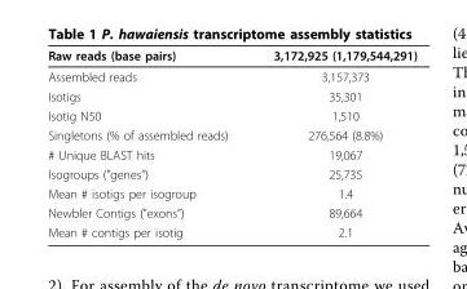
<table><thead><tr><td>Raw reads (base pairs)</td><td>3,172,925 (1,179,544,291)</td></tr></thead><tbody><tr><td>Assembled reads</td><td>3,157,373</td></tr><tr><td>Isotigs</td><td>35,301</td></tr><tr><td>Isotig N50</td><td>1,510</td></tr><tr><td>Singletons (% of assembled reads)</td><td>276,564 (8.8%)</td></tr><tr><td># Unique BLAST hits</td><td>19,067</td></tr><tr><td>Isogroups (&quot;genes”)</td><td>25,735</td></tr><tr><td>Mean # isotigs per isogroup</td><td>1.4</td></tr><tr><td>Newbler Contigs (&quot;exons”)</td><td>89,664</td></tr><tr><td>Mean # contigs per isotig</td><td>2.1</td></tr></tbody></table>